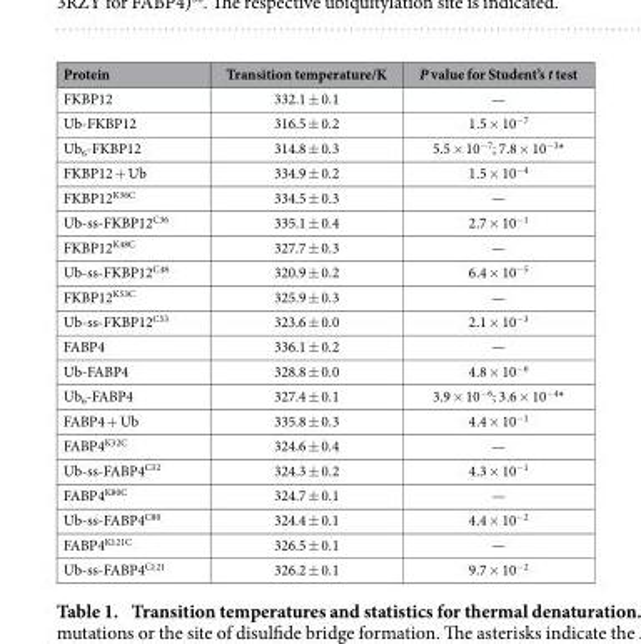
<table><thead><tr><td>Protein</td><td>Transition temperature/K</td><td>P value for Student’s t test</td></tr></thead><tbody><tr><td>FKBP12</td><td>332.1 ± 0.1</td><td>—</td></tr><tr><td>Ub-FKBP12</td><td>316.5 ± 0.2</td><td>1.5 × 10<sup>−7</sup></td></tr><tr><td>Ub<sub>6</sub>-FKBP12</td><td>314.8 ± 0.3</td><td>5.5 × 10<sup>−7</sup>; 7.8 × 10<sup>−3</sup>*</td></tr><tr><td>FKBP12 + Ub</td><td>334.9 ± 0.2</td><td>1.5 × 10<sup>−4</sup></td></tr><tr><td>FKBP12<sup>K36C</sup></td><td>334.5 ± 0.3</td><td>—</td></tr><tr><td>Ub-ss-FKBP12<sup>C36</sup></td><td>335.1 ± 0.4</td><td>2.7 × 10<sup>−1</sup></td></tr><tr><td>FKBP12<sup>K48C</sup></td><td>327.7 ± 0.3</td><td>—</td></tr><tr><td>Ub-ss-FKBP12<sup>C48</sup></td><td>320.9 ± 0.2</td><td>6.4 × 10<sup>−5</sup></td></tr><tr><td>FKBP12<sup>K53C</sup></td><td>325.9 ± 0.3</td><td>—</td></tr><tr><td>Ub-ss-FKBP12<sup>C53</sup></td><td>323.6 ± 0.0</td><td>2.1 × 10<sup>−3</sup></td></tr><tr><td>FABP4</td><td>336.1 ± 0.2</td><td>—</td></tr><tr><td>Ub-FABP4</td><td>328.8 ± 0.0</td><td>4.8 × 10<sup>−6</sup></td></tr><tr><td>Ub<sub>6</sub>-FABP4</td><td>327.4 ± 0.1</td><td>3.9 × 10<sup>−6</sup>; 3.6 × 10<sup>−4</sup>*</td></tr><tr><td>FABP4 + Ub</td><td>335.8 ± 0.3</td><td>4.4 × 10<sup>−1</sup></td></tr><tr><td>FABP4<sup>K32C</sup></td><td>324.6 ± 0.4</td><td>—</td></tr><tr><td>Ub-ss-FABP4<sup>C32</sup></td><td>324.3 ± 0.2</td><td>4.3 × 10<sup>−1</sup></td></tr><tr><td>FABP4<sup>K80C</sup></td><td>324.7 ± 0.1</td><td>—</td></tr><tr><td>Ub-ss-FABP4<sup>C80</sup></td><td>324.4 ± 0.1</td><td>4.4 × 10<sup>−2</sup></td></tr><tr><td>FABP4<sup>K121C</sup></td><td>326.5 ± 0.1</td><td>—</td></tr><tr><td>Ub-ss-FABP4<sup>C121</sup></td><td>326.2 ± 0.1</td><td>9.7 × 10<sup>−2</sup></td></tr></tbody></table>